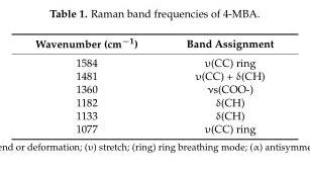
<table><thead><tr><td>Wavenumber (cm<sup>−1</sup>)</td><td>Band Assignment</td></tr></thead><tbody><tr><td>1584</td><td>υ(CC) ring</td></tr><tr><td>1481</td><td>υ(CC) + δ(CH)</td></tr><tr><td>1360</td><td>νs(COO-)</td></tr><tr><td>1182</td><td>δ(CH)</td></tr><tr><td>1133</td><td>δ(CH)</td></tr><tr><td>1077</td><td>υ(CC) ring</td></tr></tbody></table>